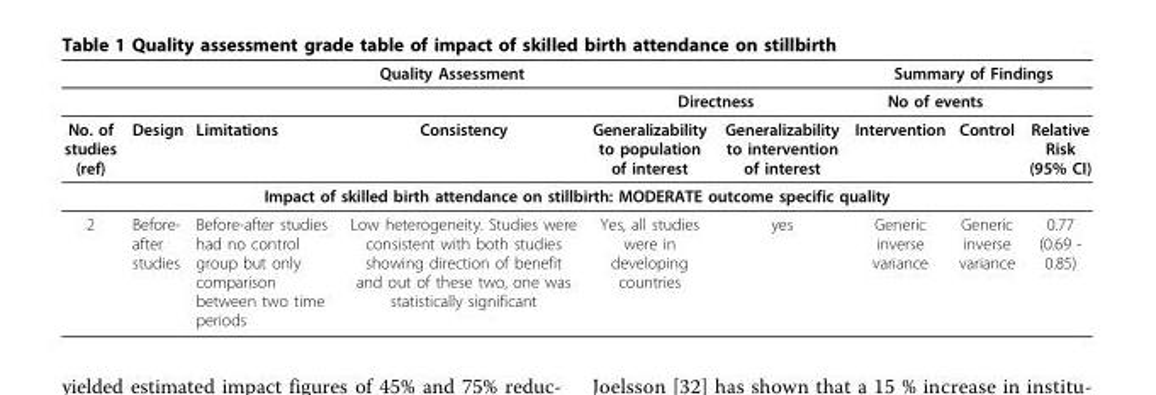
<table><thead><tr><td colspan="6">Quality Assessment</td><td colspan="3">Summary of Findings</td></tr><tr><td colspan="4"></td><td colspan="2">Directness</td><td colspan="2">No of events</td><td rowspan="2">Relative Risk (95% CI)</td></tr><tr><td>No. of studies (ref)</td><td>Design</td><td>Limitations</td><td>Consistency</td><td>Generalizability to population of interest</td><td>Generalizability to intervention of interest</td><td>Intervention</td><td>Control</td></tr></thead><tbody><tr><td colspan="9">Impact of skilled birth attendance on stillbirth: MODERATE outcome specific quality</td></tr><tr><td>2</td><td>Before- after studies</td><td>Before-after studies had no control group but only comparison between two time periods</td><td>Low heterogeneity. Studies were consistent with both studies showing direction of benefit and out of these two, one was statistically significant</td><td>Yes, all studies were in developing countries</td><td>yes</td><td>Generic inverse variance</td><td>Generic inverse variance</td><td>0.77 (0.69 - 0.85)</td></tr></tbody></table>